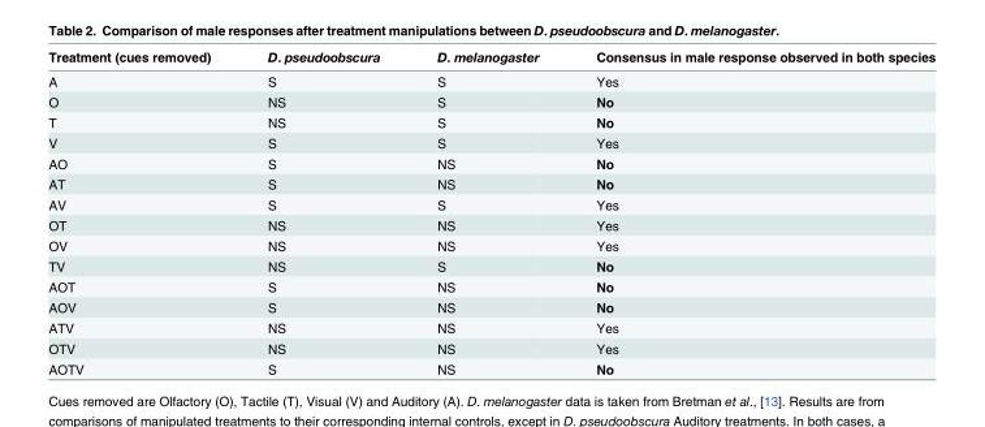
<table><thead><tr><td>Treatment (cues removed)</td><td>D. pseudoobscura</td><td>D. melanogaster</td><td>Consensus in male response observed in both species</td></tr></thead><tbody><tr><td>A</td><td>S</td><td>S</td><td>Yes</td></tr><tr><td>O</td><td>NS</td><td>S</td><td>No</td></tr><tr><td>T</td><td>NS</td><td>S</td><td>No</td></tr><tr><td>V</td><td>S</td><td>S</td><td>Yes</td></tr><tr><td>AO</td><td>S</td><td>NS</td><td>No</td></tr><tr><td>AT</td><td>S</td><td>NS</td><td>No</td></tr><tr><td>AV</td><td>S</td><td>S</td><td>Yes</td></tr><tr><td>OT</td><td>NS</td><td>NS</td><td>Yes</td></tr><tr><td>OV</td><td>NS</td><td>NS</td><td>Yes</td></tr><tr><td>TV</td><td>NS</td><td>S</td><td>No</td></tr><tr><td>AOT</td><td>S</td><td>NS</td><td>No</td></tr><tr><td>AOV</td><td>S</td><td>NS</td><td>No</td></tr><tr><td>ATV</td><td>NS</td><td>NS</td><td>Yes</td></tr><tr><td>OTV</td><td>NS</td><td>NS</td><td>Yes</td></tr><tr><td>AOTV</td><td>S</td><td>NS</td><td>No</td></tr></tbody></table>